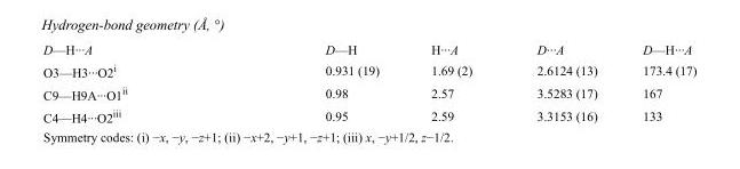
<table><tbody><tr><td>D—H···A</td><td>D—H</td><td>H···A</td><td>D···A</td><td>D—H···A</td></tr><tr><td>O3—H3···O2<sup>i</sup></td><td>0.931 (19)</td><td>1.69 (2)</td><td>2.6124 (13)</td><td>173.4 (17)</td></tr><tr><td>C9—H9A···O1<sup>ii</sup></td><td>0.98</td><td>2.57</td><td>3.5283 (17)</td><td>167</td></tr><tr><td>C4—H4···O2<sup>iii</sup></td><td>0.95</td><td>2.59</td><td>3.3153 (16)</td><td>133</td></tr></tbody></table>